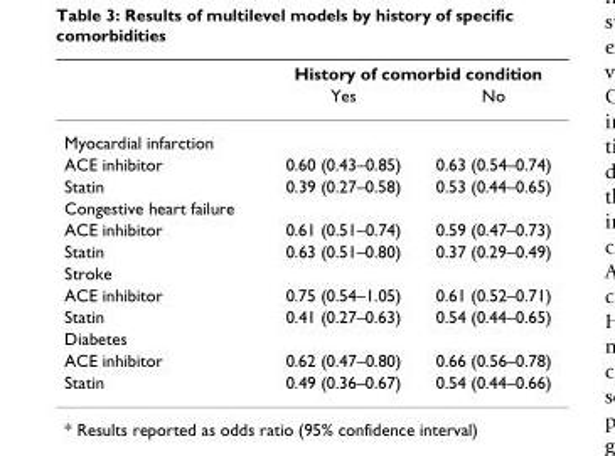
<table><thead><tr><td rowspan="2"></td><td colspan="2">History of comorbid condition</td></tr><tr><td>Yes</td><td>No</td></tr></thead><tbody><tr><td colspan="3">Myocardial infarction</td></tr><tr><td>ACE inhibitor</td><td>0.60 (0.43–0.85)</td><td>0.63 (0.54–0.74)</td></tr><tr><td>Statin</td><td>0.39 (0.27–0.58)</td><td>0.53 (0.44–0.65)</td></tr><tr><td colspan="3">Congestive heart failure</td></tr><tr><td>ACE inhibitor</td><td>0.61 (0.51–0.74)</td><td>0.59 (0.47–0.73)</td></tr><tr><td>Statin</td><td>0.63 (0.51–0.80)</td><td>0.37 (0.29–0.49)</td></tr><tr><td colspan="3">Stroke</td></tr><tr><td>ACE inhibitor</td><td>0.75 (0.54–1.05)</td><td>0.61 (0.52–0.71)</td></tr><tr><td>Statin</td><td>0.41 (0.27–0.63)</td><td>0.54 (0.44–0.65)</td></tr><tr><td colspan="3">Diabetes</td></tr><tr><td>ACE inhibitor</td><td>0.62 (0.47–0.80)</td><td>0.66 (0.56–0.78)</td></tr><tr><td>Statin</td><td>0.49 (0.36–0.67)</td><td>0.54 (0.44–0.66)</td></tr></tbody></table>